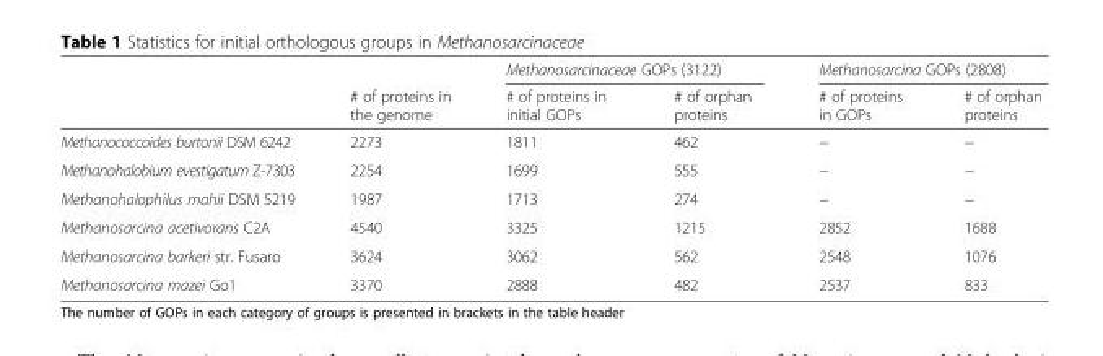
<table><thead><tr><td rowspan="2"></td><td rowspan="2"># of proteins in the genome</td><td colspan="2">Methanosarcinaceae GOPs (3122)</td><td colspan="2">Methanosarcina GOPs (2808)</td></tr><tr><td># of proteins in initial GOPs</td><td># of orphan proteins</td><td># of proteins in GOPs</td><td># of orphan proteins</td></tr></thead><tbody><tr><td>Methanococcoides burtonii DSM 6242</td><td>2273</td><td>1811</td><td>462</td><td>−</td><td>−</td></tr><tr><td>Methanohalobium evestigatum Z-7303</td><td>2254</td><td>1699</td><td>555</td><td>−</td><td>−</td></tr><tr><td>Methanohalophilus mahii DSM 5219</td><td>1987</td><td>1713</td><td>274</td><td>−</td><td>−</td></tr><tr><td>Methanosarcina acetivorans C2A</td><td>4540</td><td>3325</td><td>1215</td><td>2852</td><td>1688</td></tr><tr><td>Methanosarcina barkeri str. Fusaro</td><td>3624</td><td>3062</td><td>562</td><td>2548</td><td>1076</td></tr><tr><td>Methanosarcina mazei Go1</td><td>3370</td><td>2888</td><td>482</td><td>2537</td><td>833</td></tr></tbody></table>